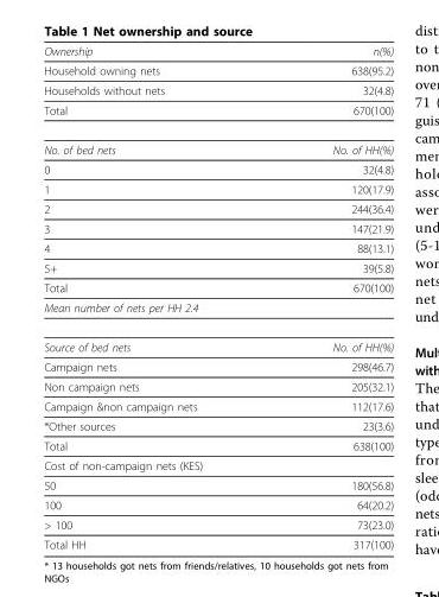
<table><thead><tr><td>Ownership</td><td>n(%)</td></tr></thead><tbody><tr><td>Household owning nets</td><td>638(95.2)</td></tr><tr><td>Households without nets</td><td>32(4.8)</td></tr><tr><td>Total</td><td>670(100)</td></tr><tr><td>No. of bed nets</td><td>No. of HH(%)</td></tr><tr><td>0</td><td>32(4.8)</td></tr><tr><td>1</td><td>120(17.9)</td></tr><tr><td>2</td><td>244(36.4)</td></tr><tr><td>3</td><td>147(21.9)</td></tr><tr><td>4</td><td>88(13.1)</td></tr><tr><td>5+</td><td>39(5.8)</td></tr><tr><td>Total</td><td>670(100)</td></tr><tr><td colspan="2">Mean number of nets per HH 2.4</td></tr><tr><td>Source of bed nets</td><td>No. of HH(%)</td></tr><tr><td>Campaign nets</td><td>298(46.7)</td></tr><tr><td>Non campaign nets</td><td>205(32.1)</td></tr><tr><td>Campaign &amp;non campaign nets</td><td>112(17.6)</td></tr><tr><td>*Other sources</td><td>23(3.6)</td></tr><tr><td>Total</td><td>638(100)</td></tr><tr><td colspan="2">Cost of non-campaign nets (KES)</td></tr><tr><td>50</td><td>180(56.8)</td></tr><tr><td>100</td><td>64(20.2)</td></tr><tr><td>&gt; 100</td><td>73(23.0)</td></tr><tr><td>Total HH</td><td>317(100)</td></tr></tbody></table>